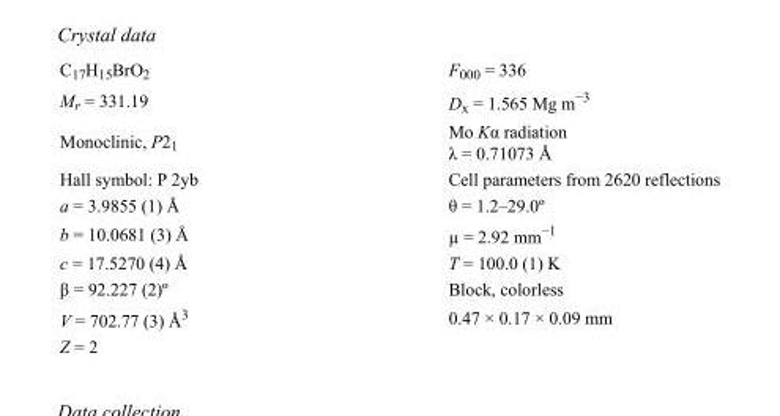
<table><tbody><tr><td>C<sub>17</sub>H<sub>15</sub>BrO<sub>2</sub></td><td>F<sub>000</sub> = 336</td></tr><tr><td>M<sub>r</sub> = 331.19</td><td>D<sub>x</sub> = 1.565 Mg m<sup>−3</sup></td></tr><tr><td>Monoclinic, P2<sub>1</sub></td><td>Mo Kα radiation λ = 0.71073 Å</td></tr><tr><td>Hall symbol: P 2yb</td><td>Cell parameters from 2620 reflections</td></tr><tr><td>a = 3.9855 (1) Å</td><td>θ = 1.2–29.0º</td></tr><tr><td>b = 10.0681 (3) Å</td><td>µ = 2.92 mm<sup>−1</sup></td></tr><tr><td>c = 17.5270 (4) Å</td><td>T = 100.0 (1) K</td></tr><tr><td>β = 92.227 (2)º</td><td>Block, colorless</td></tr><tr><td>V = 702.77 (3) Å<sup>3</sup></td><td>0.47 × 0.17 × 0.09 mm</td></tr><tr><td>Z = 2</td><td></td></tr></tbody></table>